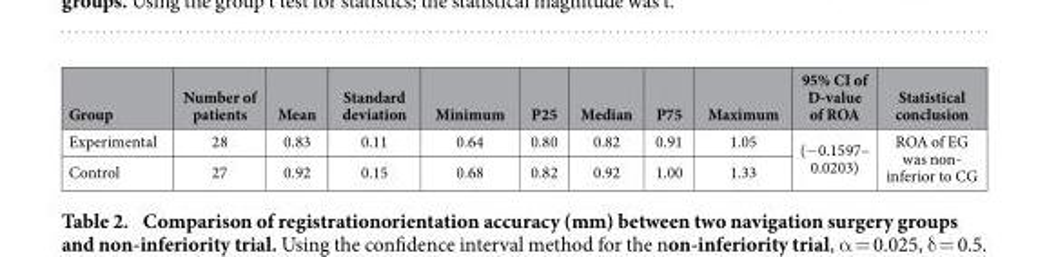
<table><thead><tr><td>Group</td><td>Number of patients</td><td>Mean</td><td>Standard deviation</td><td>Minimum</td><td>P25</td><td>Median</td><td>P75</td><td>Maximum</td><td>95% CI of D-value of ROA</td><td>Statistical conclusion</td></tr></thead><tbody><tr><td>Experimental</td><td>28</td><td>0.83</td><td>0.11</td><td>0.64</td><td>0.80</td><td>0.82</td><td>0.91</td><td>1.05</td><td rowspan="2">(− 0.1597– 0.0203)</td><td rowspan="2">ROA of EG was non- inferior to CG</td></tr><tr><td>Control</td><td>27</td><td>0.92</td><td>0.15</td><td>0.68</td><td>0.82</td><td>0.92</td><td>1.00</td><td>1.33</td></tr></tbody></table>